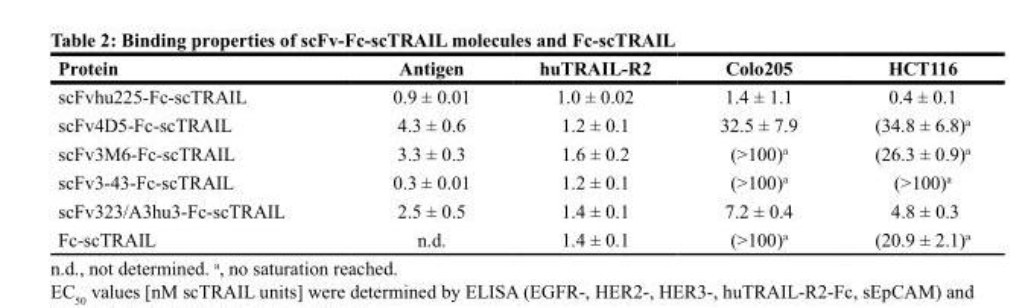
<table><thead><tr><td>Protein</td><td>Antigen</td><td>huTRAIL-R2</td><td>Colo205</td><td>HCT116</td></tr></thead><tbody><tr><td>scFvhu225-Fc-scTRAIL</td><td>0.9 ± 0.01</td><td>1.0 ± 0.02</td><td>1.4 ± 1.1</td><td>0.4 ± 0.1</td></tr><tr><td>scFv4D5-Fc-scTRAIL</td><td>4.3 ± 0.6</td><td>1.2 ± 0.1</td><td>32.5 ± 7.9</td><td>(34.8 ± 6.8)<sup>a</sup></td></tr><tr><td>scFv3M6-Fc-scTRAIL</td><td>3.3 ± 0.3</td><td>1.6 ± 0.2</td><td>(&gt;100)<sup>a</sup></td><td>(26.3 ± 0.9)<sup>a</sup></td></tr><tr><td>scFv3-43-Fc-scTRAIL</td><td>0.3 ± 0.01</td><td>1.2 ± 0.1</td><td>(&gt;100)<sup>a</sup></td><td>(&gt;100)<sup>a</sup></td></tr><tr><td>scFv323/A3hu3-Fc-scTRAIL</td><td>2.5 ± 0.5</td><td>1.4 ± 0.1</td><td>7.2 ± 0.4</td><td>4.8 ± 0.3</td></tr><tr><td>Fc-scTRAIL</td><td>n.d.</td><td>1.4 ± 0.1</td><td>(&gt;100)<sup>a</sup></td><td>(20.9 ± 2.1)<sup>a</sup></td></tr></tbody></table>